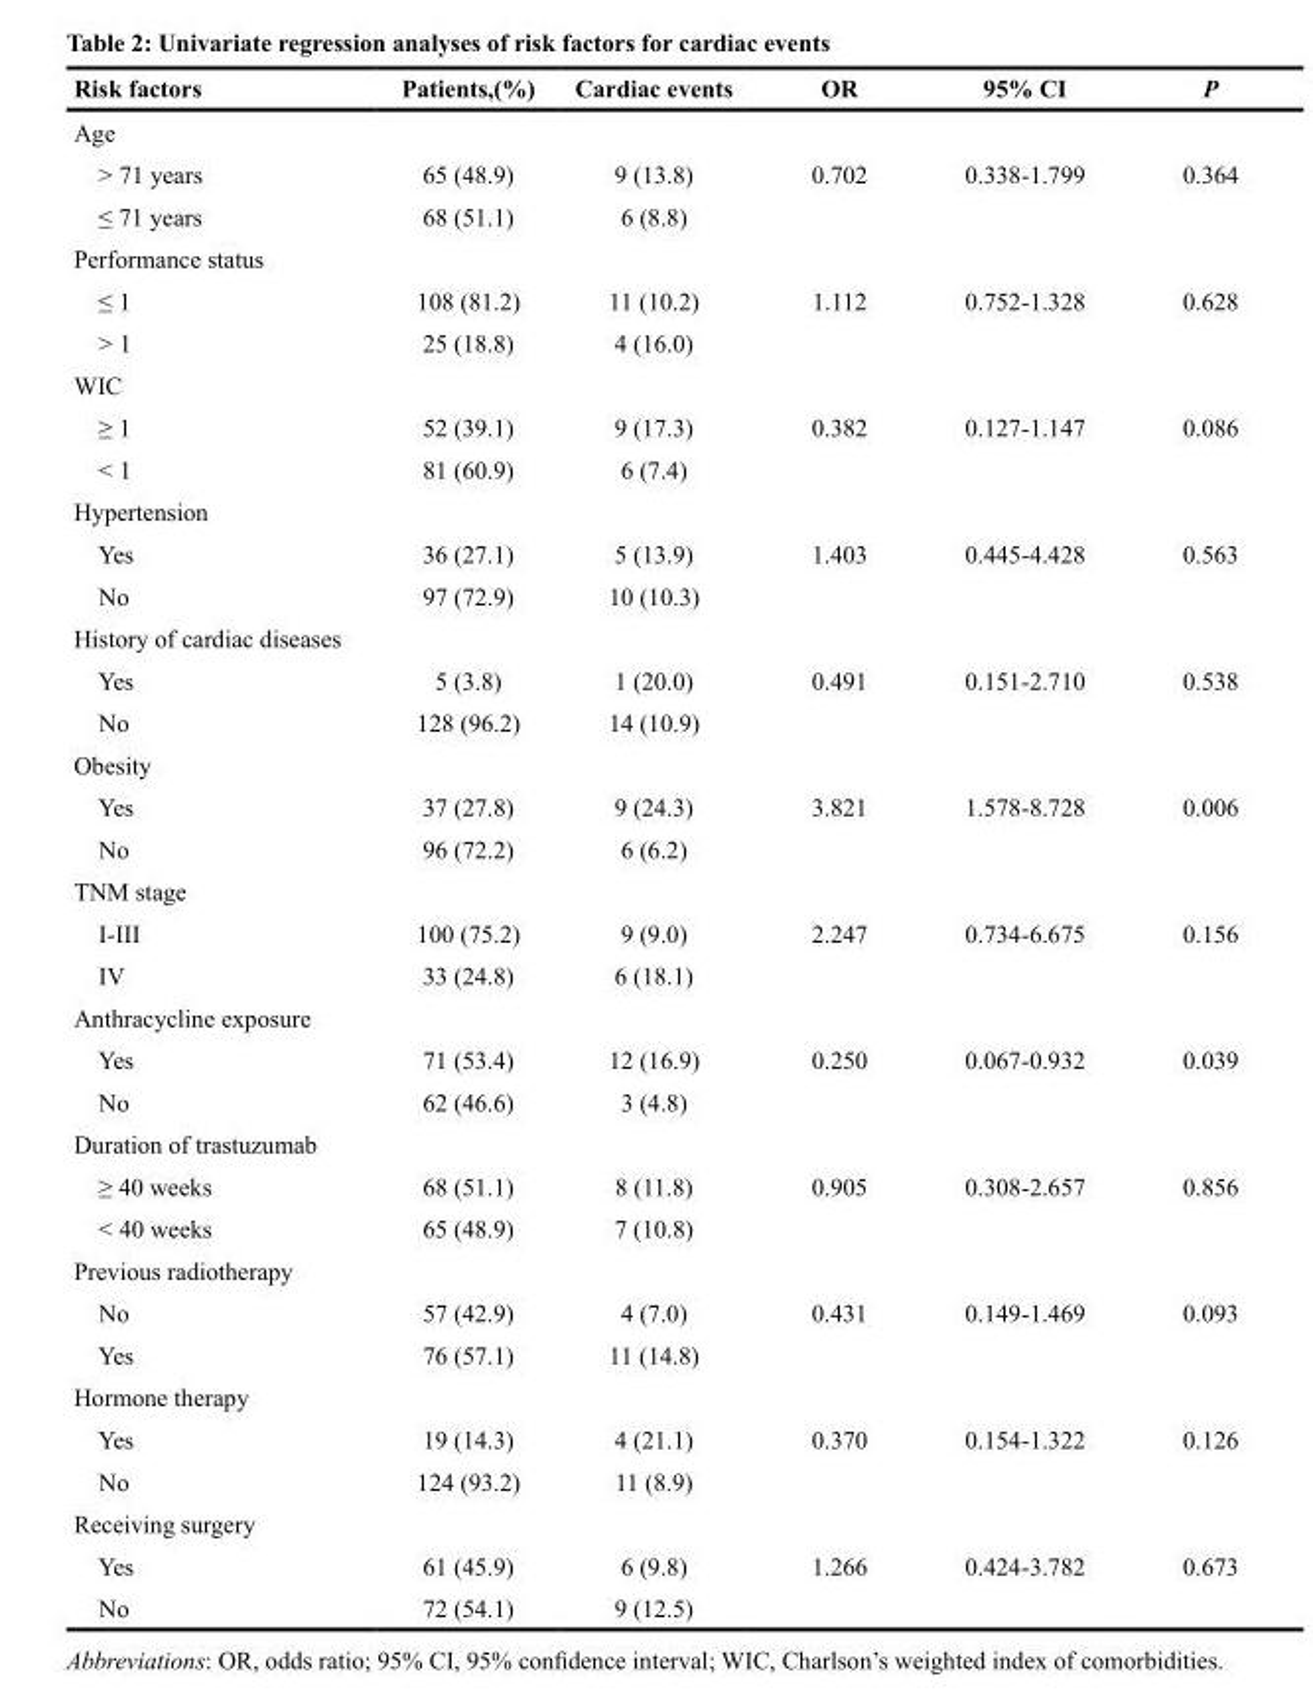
<table><thead><tr><td>Risk factors</td><td>Patients,(%)</td><td>Cardiac events</td><td>OR</td><td>95% CI</td><td>P</td></tr></thead><tbody><tr><td colspan="6">Age</td></tr><tr><td>&gt; 71 years</td><td>65 (48.9)</td><td>9 (13.8)</td><td>0.702</td><td>0.338-1.799</td><td>0.364</td></tr><tr><td>≤ 71 years</td><td>68 (51.1)</td><td>6 (8.8)</td><td></td><td></td><td></td></tr><tr><td colspan="6">Performance status</td></tr><tr><td>≤ 1</td><td>108 (81.2)</td><td>11 (10.2)</td><td>1.112</td><td>0.752-1.328</td><td>0.628</td></tr><tr><td>&gt; 1</td><td>25 (18.8)</td><td>4 (16.0)</td><td></td><td></td><td></td></tr><tr><td colspan="6">WIC</td></tr><tr><td>≥ 1</td><td>52 (39.1)</td><td>9 (17.3)</td><td>0.382</td><td>0.127-1.147</td><td>0.086</td></tr><tr><td>&lt; 1</td><td>81 (60.9)</td><td>6 (7.4)</td><td></td><td></td><td></td></tr><tr><td colspan="6">Hypertension</td></tr><tr><td>Yes</td><td>36 (27.1)</td><td>5 (13.9)</td><td>1.403</td><td>0.445-4.428</td><td>0.563</td></tr><tr><td>No</td><td>97 (72.9)</td><td>10 (10.3)</td><td></td><td></td><td></td></tr><tr><td colspan="6">History of cardiac diseases</td></tr><tr><td>Yes</td><td>5 (3.8)</td><td>1 (20.0)</td><td>0.491</td><td>0.151-2.710</td><td>0.538</td></tr><tr><td>No</td><td>128 (96.2)</td><td>14 (10.9)</td><td></td><td></td><td></td></tr><tr><td colspan="6">Obesity</td></tr><tr><td>Yes</td><td>37 (27.8)</td><td>9 (24.3)</td><td>3.821</td><td>1.578-8.728</td><td>0.006</td></tr><tr><td>No</td><td>96 (72.2)</td><td>6 (6.2)</td><td></td><td></td><td></td></tr><tr><td colspan="6">TNM stage</td></tr><tr><td>I-III</td><td>100 (75.2)</td><td>9 (9.0)</td><td>2.247</td><td>0.734-6.675</td><td>0.156</td></tr><tr><td>IV</td><td>33 (24.8)</td><td>6 (18.1)</td><td></td><td></td><td></td></tr><tr><td colspan="6">Anthracycline exposure</td></tr><tr><td>Yes</td><td>71 (53.4)</td><td>12 (16.9)</td><td>0.250</td><td>0.067-0.932</td><td>0.039</td></tr><tr><td>No</td><td>62 (46.6)</td><td>3 (4.8)</td><td></td><td></td><td></td></tr><tr><td colspan="6">Duration of trastuzumab</td></tr><tr><td>≥ 40 weeks</td><td>68 (51.1)</td><td>8 (11.8)</td><td>0.905</td><td>0.308-2.657</td><td>0.856</td></tr><tr><td>&lt; 40 weeks</td><td>65 (48.9)</td><td>7 (10.8)</td><td></td><td></td><td></td></tr><tr><td colspan="6">Previous radiotherapy</td></tr><tr><td>No</td><td>57 (42.9)</td><td>4 (7.0)</td><td>0.431</td><td>0.149-1.469</td><td>0.093</td></tr><tr><td>Yes</td><td>76 (57.1)</td><td>11 (14.8)</td><td></td><td></td><td></td></tr><tr><td colspan="6">Hormone therapy</td></tr><tr><td>Yes</td><td>19 (14.3)</td><td>4 (21.1)</td><td>0.370</td><td>0.154-1.322</td><td>0.126</td></tr><tr><td>No</td><td>124 (93.2)</td><td>11 (8.9)</td><td></td><td></td><td></td></tr><tr><td colspan="6">Receiving surgery</td></tr><tr><td>Yes</td><td>61 (45.9)</td><td>6 (9.8)</td><td>1.266</td><td>0.424-3.782</td><td>0.673</td></tr><tr><td>No</td><td>72 (54.1)</td><td>9 (12.5)</td><td></td><td></td><td></td></tr></tbody></table>